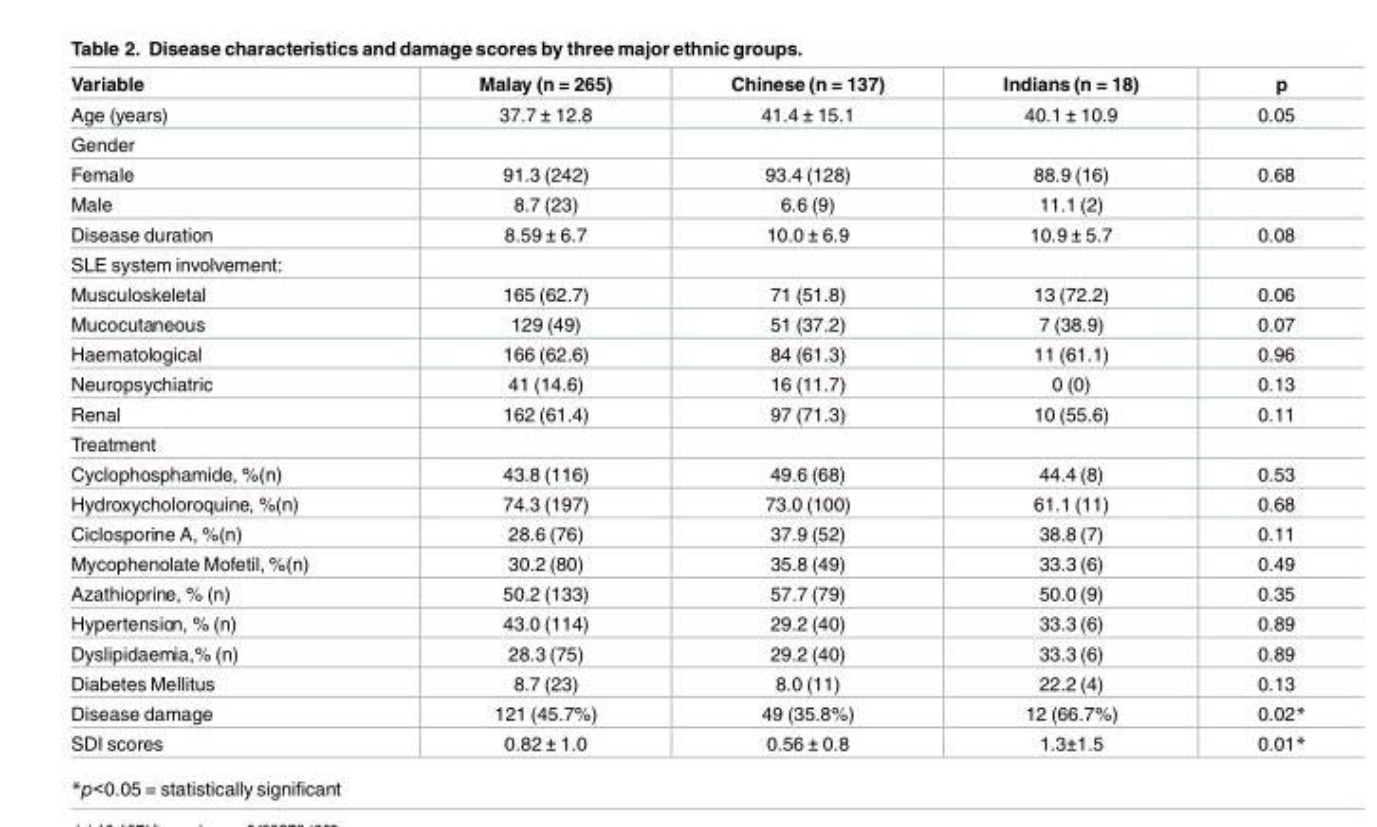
<table><thead><tr><td>Variable</td><td>Malay (n = 265)</td><td>Chinese (n = 137)</td><td>Indians (n = 18)</td><td>p</td></tr></thead><tbody><tr><td>Age (years)</td><td>37.7 ± 12.8</td><td>41.4 ± 15.1</td><td>40.1 ± 10.9</td><td>0.05</td></tr><tr><td colspan="5">Gender</td></tr><tr><td>Female</td><td>91.3 (242)</td><td>93.4 (128)</td><td>88.9 (16)</td><td>0.68</td></tr><tr><td>Male</td><td>8.7 (23)</td><td>6.6 (9)</td><td>11.1 (2)</td><td></td></tr><tr><td>Disease duration</td><td>8.59 ± 6.7</td><td>10.0 ± 6.9</td><td>10.9 ± 5.7</td><td>0.08</td></tr><tr><td colspan="5">SLE system involvement:</td></tr><tr><td>Musculoskeletal</td><td>165 (62.7)</td><td>71 (51.8)</td><td>13 (72.2)</td><td>0.06</td></tr><tr><td>Mucocutaneous</td><td>129 (49)</td><td>51 (37.2)</td><td>7 (38.9)</td><td>0.07</td></tr><tr><td>Haematological</td><td>166 (62.6)</td><td>84 (61.3)</td><td>11 (61.1)</td><td>0.96</td></tr><tr><td>Neuropsychiatric</td><td>41 (14.6)</td><td>16 (11.7)</td><td>0 (0)</td><td>0.13</td></tr><tr><td>Renal</td><td>162 (61.4)</td><td>97 (71.3)</td><td>10 (55.6)</td><td>0.11</td></tr><tr><td colspan="5">Treatment</td></tr><tr><td>Cyclophosphamide, %(n)</td><td>43.8 (116)</td><td>49.6 (68)</td><td>44.4 (8)</td><td>0.53</td></tr><tr><td>Hydroxycholoroquine, %(n)</td><td>74.3 (197)</td><td>73.0 (100)</td><td>61.1 (11)</td><td>0.68</td></tr><tr><td>Ciclosporine A, %(n)</td><td>28.6 (76)</td><td>37.9 (52)</td><td>38.8 (7)</td><td>0.11</td></tr><tr><td>Mycophenolate Mofetil, %(n)</td><td>30.2 (80)</td><td>35.8 (49)</td><td>33.3 (6)</td><td>0.49</td></tr><tr><td>Azathioprine, % (n)</td><td>50.2 (133)</td><td>57.7 (79)</td><td>50.0 (9)</td><td>0.35</td></tr><tr><td>Hypertension, % (n)</td><td>43.0 (114)</td><td>29.2 (40)</td><td>33.3 (6)</td><td>0.89</td></tr><tr><td>Dyslipidaemia,% (n)</td><td>28.3 (75)</td><td>29.2 (40)</td><td>33.3 (6)</td><td>0.89</td></tr><tr><td>Diabetes Mellitus</td><td>8.7 (23)</td><td>8.0 (11)</td><td>22.2 (4)</td><td>0.13</td></tr><tr><td>Disease damage</td><td>121 (45.7%)</td><td>49 (35.8%)</td><td>12 (66.7%)</td><td>0.02*</td></tr><tr><td>SDI scores</td><td>0.82 ± 1.0</td><td>0.56 ± 0.8</td><td>1.3±1.5</td><td>0.01*</td></tr></tbody></table>